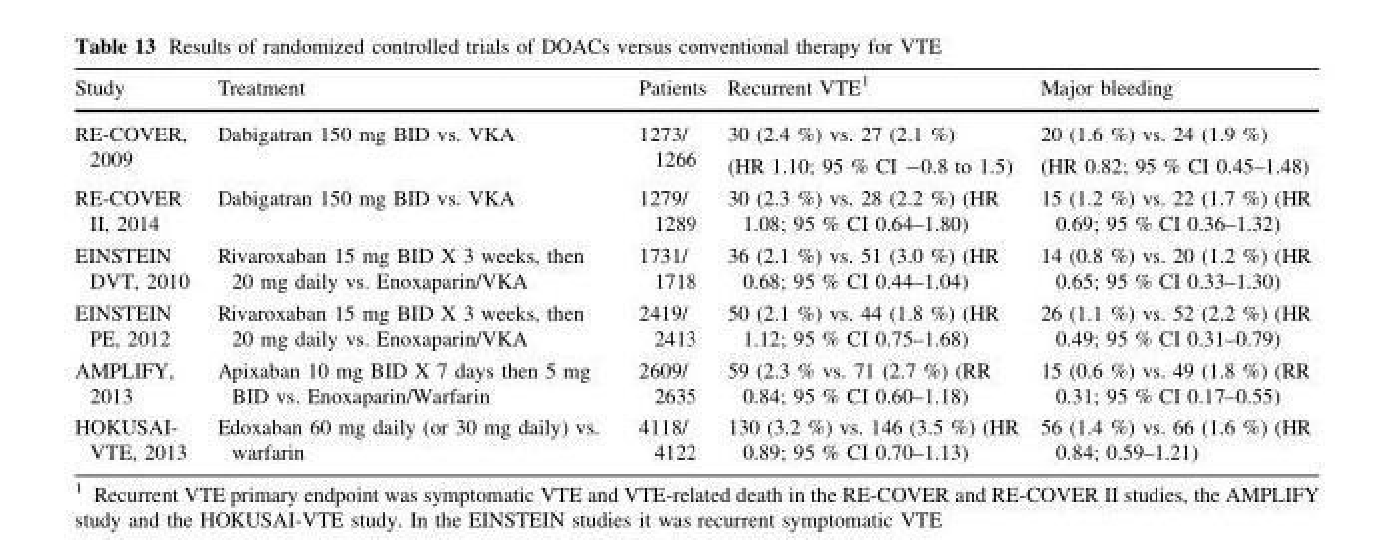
<table><thead><tr><td>Study</td><td>Treatment</td><td>Patients</td><td>Recurrent VTE<sup>1</sup></td><td>Major bleeding</td></tr></thead><tbody><tr><td>RE-COVER, 2009</td><td>Dabigatran 150 mg BID vs. VKA</td><td>1273/ 1266</td><td>30 (2.4 %) vs. 27 (2.1 %) (HR 1.10; 95 % CI -0.8 to 1.5)</td><td>20 (1.6 %) vs. 24 (1.9 %) (HR 0.82; 95 % CI 0.45–1.48)</td></tr><tr><td>RE-COVER II, 2014</td><td>Dabigatran 150 mg BID vs. VKA</td><td>1279/ 1289</td><td>30 (2.3 %) vs. 28 (2.2 %) (HR 1.08; 95 % CI 0.64–1.80)</td><td>15 (1.2 %) vs. 22 (1.7 %) (HR 0.69; 95 % CI 0.36–1.32)</td></tr><tr><td>EINSTEIN DVT, 2010</td><td>Rivaroxaban 15 mg BID X 3 weeks, then 20 mg daily vs. Enoxaparin/VKA</td><td>1731/ 1718</td><td>36 (2.1 %) vs. 51 (3.0 %) (HR 0.68; 95 % CI 0.44–1.04)</td><td>14 (0.8 %) vs. 20 (1.2 %) (HR 0.65; 95 % CI 0.33–1.30)</td></tr><tr><td>EINSTEIN PE, 2012</td><td>Rivaroxaban 15 mg BID X 3 weeks, then 20 mg daily vs. Enoxaparin/VKA</td><td>2419/ 2413</td><td>50 (2.1 %) vs. 44 (1.8 %) (HR 1.12; 95 % CI 0.75–1.68)</td><td>26 (1.1 %) vs. 52 (2.2 %) (HR 0.49; 95 % CI 0.31–0.79)</td></tr><tr><td>AMPLIFY, 2013</td><td>Apixaban 10 mg BID X 7 days then 5 mg BID vs. Enoxaparin/Warfarin</td><td>2609/ 2635</td><td>59 (2.3 % vs. 71 (2.7 %) (RR 0.84; 95 % CI 0.60–1.18)</td><td>15 (0.6 %) vs. 49 (1.8 %) (RR 0.31; 95 % CI 0.17–0.55)</td></tr><tr><td>HOKUSAI- VTE, 2013</td><td>Edoxaban 60 mg daily (or 30 mg daily) vs. warfarin</td><td>4118/ 4122</td><td>130 (3.2 %) vs. 146 (3.5 %) (HR 0.89; 95 % CI 0.70–1.13)</td><td>56 (1.4 %) vs. 66 (1.6 %) (HR 0.84; 0.59–1.21)</td></tr></tbody></table>